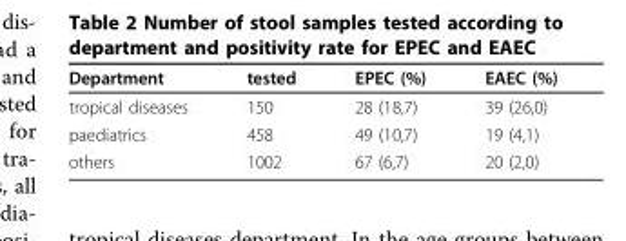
<table><thead><tr><td>Department</td><td>tested</td><td>EPEC (%)</td><td>EAEC (%)</td></tr></thead><tbody><tr><td>tropical diseases</td><td>150</td><td>28 (18,7)</td><td>39 (26,0)</td></tr><tr><td>paediatrics</td><td>458</td><td>49 (10,7)</td><td>19 (4,1)</td></tr><tr><td>others</td><td>1002</td><td>67 (6,7)</td><td>20 (2,0)</td></tr></tbody></table>